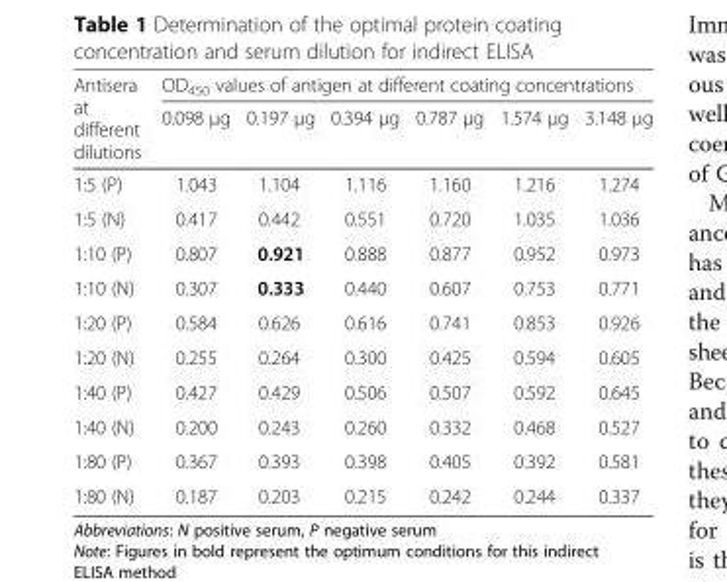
<table><thead><tr><td rowspan="2">Antisera at different dilutions</td><td colspan="6">OD<sub>450</sub> values of antigen at different coating concentrations</td></tr><tr><td>0.098 μg</td><td>0.197 μg</td><td>0.394 μg</td><td>0.787 μg</td><td>1.574 μg</td><td>3.148 μg</td></tr></thead><tbody><tr><td>1:5 (P)</td><td>1.043</td><td>1.104</td><td>1.116</td><td>1.160</td><td>1.216</td><td>1.274</td></tr><tr><td>1:5 (N)</td><td>0.417</td><td>0.442</td><td>0.551</td><td>0.720</td><td>1.035</td><td>1.036</td></tr><tr><td>1:10 (P)</td><td>0.807</td><td>0.921</td><td>0.888</td><td>0.877</td><td>0.952</td><td>0.973</td></tr><tr><td>1:10 (N)</td><td>0.307</td><td>0.333</td><td>0.440</td><td>0.607</td><td>0.753</td><td>0.771</td></tr><tr><td>1:20 (P)</td><td>0.584</td><td>0.626</td><td>0.616</td><td>0.741</td><td>0.853</td><td>0.926</td></tr><tr><td>1:20 (N)</td><td>0.255</td><td>0.264</td><td>0.300</td><td>0.425</td><td>0.594</td><td>0.605</td></tr><tr><td>1:40 (P)</td><td>0.427</td><td>0.429</td><td>0.506</td><td>0.507</td><td>0.592</td><td>0.645</td></tr><tr><td>1:40 (N)</td><td>0.200</td><td>0.243</td><td>0.260</td><td>0.332</td><td>0.468</td><td>0.527</td></tr><tr><td>1:80 (P)</td><td>0.367</td><td>0.393</td><td>0.398</td><td>0.405</td><td>0.392</td><td>0.581</td></tr><tr><td>1:80 (N)</td><td>0.187</td><td>0.203</td><td>0.215</td><td>0.242</td><td>0.244</td><td>0.337</td></tr></tbody></table>